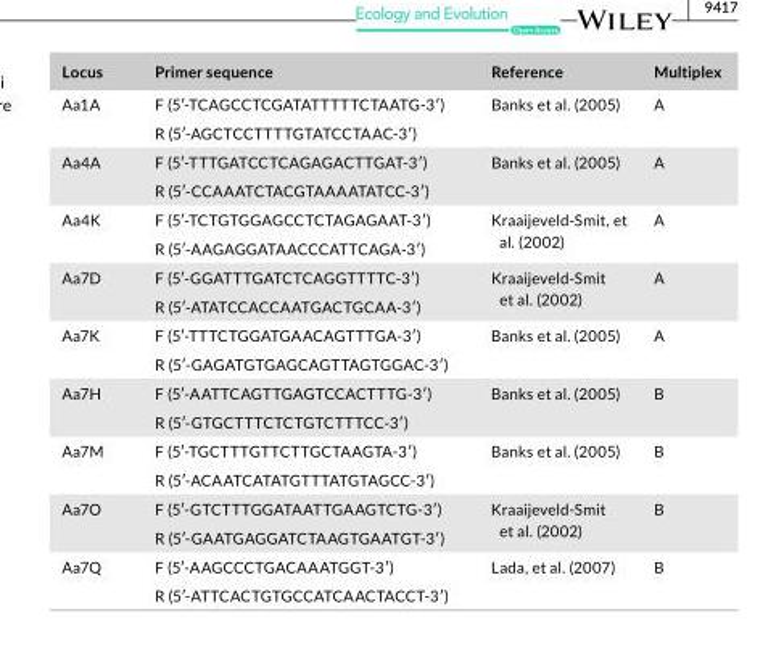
<table><thead><tr><td>Locus</td><td>Primer sequence</td><td>Reference</td><td>Multiplex</td></tr></thead><tbody><tr><td rowspan="2">Aa1A</td><td>F (5′- TCAGCCTCGATATTTTTCTAATG- 3′)</td><td rowspan="2">Banks et al. (2005)</td><td rowspan="2">A</td></tr><tr><td>R (5′- AGCTCCTTTTGTATCCTAAC- 3′)</td></tr><tr><td rowspan="2">Aa4A</td><td>F (5′- TTTGATCCTCAGAGACTTGAT- 3′)</td><td rowspan="2">Banks et al. (2005)</td><td rowspan="2">A</td></tr><tr><td>R (5′- CCAAATCTACGTAAAATATCC- 3′)</td></tr><tr><td rowspan="2">Aa4K</td><td>F (5′- TCTGTGGAGCCTCTAGAGAAT- 3′)</td><td rowspan="2">Kraaijeveld- Smit, et al. (2002)</td><td rowspan="2">A</td></tr><tr><td>R (5′- AAGAGGATAACCCATTCAGA- 3′)</td></tr><tr><td rowspan="2">Aa7D</td><td>F (5′- GGATTTGATCTCAGGTTTTC- 3′)</td><td rowspan="2">Kraaijeveld- Smit et al. (2002)</td><td rowspan="2">A</td></tr><tr><td>R (5′- ATATCCACCAATGACTGCAA- 3′)</td></tr><tr><td rowspan="2">Aa7K</td><td>F (5′- TTTCTGGATGAACAGTTTGA- 3′)</td><td rowspan="2">Banks et al. (2005)</td><td rowspan="2">A</td></tr><tr><td>R (5′- GAGATGTGAGCAGTTAGTGGAC- 3′)</td></tr><tr><td rowspan="2">Aa7H</td><td>F (5′- AATTCAGTTGAGTCCACTTTG- 3′)</td><td rowspan="2">Banks et al. (2005)</td><td rowspan="2">B</td></tr><tr><td>R (5′- GTGCTTTCTCTGTCTTTCC- 3′)</td></tr><tr><td rowspan="2">Aa7M</td><td>F (5′- TGCTTTGTTCTTGCTAAGTA- 3′)</td><td rowspan="2">Banks et al. (2005)</td><td rowspan="2">B</td></tr><tr><td>R (5′- ACAATCATATGTTTATGTAGCC- 3′)</td></tr><tr><td rowspan="2">Aa7O</td><td>F (5′- GTCTTTGGATAATTGAAGTCTG- 3′)</td><td rowspan="2">Kraaijeveld- Smit et al. (2002)</td><td rowspan="2">B</td></tr><tr><td>R (5′- GAATGAGGATCTAAGTGAATGT- 3′)</td></tr><tr><td rowspan="2">Aa7Q</td><td>F (5′- AAGCCCTGACAAATGGT- 3′)</td><td rowspan="2">Lada, et al. (2007)</td><td rowspan="2">B</td></tr><tr><td>R (5′- ATTCACTGTGCCATCAACTACCT- 3′)</td></tr></tbody></table>